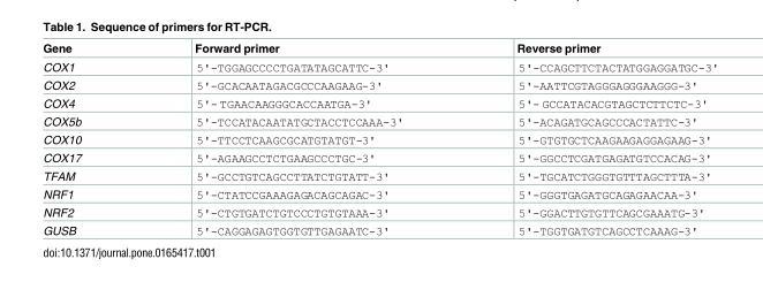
<table><thead><tr><td>Gene</td><td>Forward primer</td><td>Reverse primer</td></tr></thead><tbody><tr><td>COX1</td><td>5&#x27;-TGGAGCCCCTGATATAGCATTC-3&#x27;</td><td>5&#x27;-CCAGCTTCTACTATGGAGGATGC-3&#x27;</td></tr><tr><td>COX2</td><td>5&#x27;-GCACAATAGACGCCCAAGAAG-3&#x27;</td><td>5&#x27;-AATTCGTAGGGAGGGAAGGG-3&#x27;</td></tr><tr><td>COX4</td><td>5&#x27;- TGAACAAGGGCACCAATGA-3&#x27;</td><td>5&#x27;- GCCATACACGTAGCTCTTCTC-3&#x27;</td></tr><tr><td>COX5b</td><td>5&#x27;-TCCATACAATATGCTACCTCCAAA-3&#x27;</td><td>5&#x27;-ACAGATGCAGCCCACTATTC-3&#x27;</td></tr><tr><td>COX10</td><td>5&#x27;-TTCCTCAAGCGCATGTATGT-3&#x27;</td><td>5&#x27;-GTGTGCTCAAGAAGAGGAGAAG-3&#x27;</td></tr><tr><td>COX17</td><td>5&#x27;-AGAAGCCTCTGAAGCCCTGC-3&#x27;</td><td>5&#x27;-GGCCTCGATGAGATGTCCACAG-3&#x27;</td></tr><tr><td>TFAM</td><td>5&#x27;-GCCTGTCAGCCTTATCTGTATT-3&#x27;</td><td>5&#x27;-TGCATCTGGGTGTTTAGCTTTA-3&#x27;</td></tr><tr><td>NRF1</td><td>5&#x27;-CTATCCGAAAGAGACAGCAGAC-3&#x27;</td><td>5&#x27;-GGGTGAGATGCAGAGAACAA-3&#x27;</td></tr><tr><td>NRF2</td><td>5&#x27;-CTGTGATCTGTCCCTGTGTAAA-3&#x27;</td><td>5&#x27;-GGACTTGTGTTCAGCGAAATG-3&#x27;</td></tr><tr><td>GUSB</td><td>5&#x27;-CAGGAGAGTGGTGTTGAGAATC-3&#x27;</td><td>5&#x27;-TGGTGATGTCAGCCTCAAAG-3&#x27;</td></tr></tbody></table>